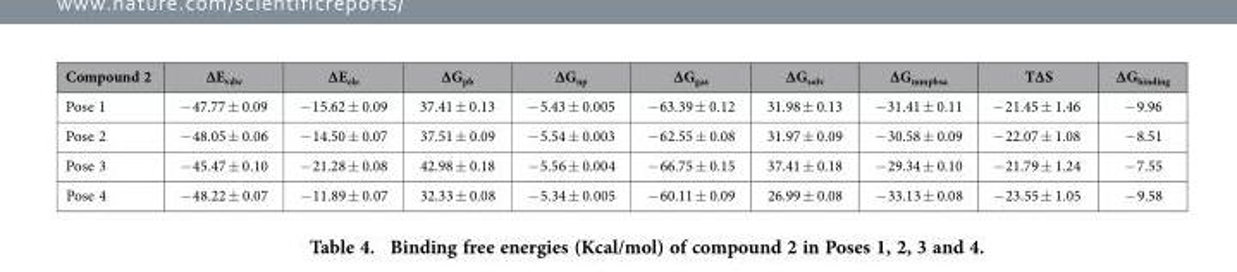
<table><thead><tr><td>Compound 2</td><td>∆E<sub>vdw</sub></td><td>∆E<sub>ele</sub></td><td>∆G<sub>pb</sub></td><td>∆G<sub>np</sub></td><td>∆G<sub>gas</sub></td><td>∆G<sub>solv</sub></td><td>∆G<sub>mmpbsa</sub></td><td>T∆S</td><td>∆G<sub>binding</sub></td></tr></thead><tbody><tr><td>Pose 1</td><td>− 47.77 ± 0.09</td><td>− 15.62 ± 0.09</td><td>37.41 ± 0.13</td><td>− 5.43 ± 0.005</td><td>− 63.39 ± 0.12</td><td>31.98 ± 0.13</td><td>− 31.41 ± 0.11</td><td>− 21.45 ± 1.46</td><td>− 9.96</td></tr><tr><td>Pose 2</td><td>− 48.05 ± 0.06</td><td>− 14.50 ± 0.07</td><td>37.51 ± 0.09</td><td>− 5.54 ± 0.003</td><td>− 62.55 ± 0.08</td><td>31.97 ± 0.09</td><td>− 30.58 ± 0.09</td><td>− 22.07 ± 1.08</td><td>− 8.51</td></tr><tr><td>Pose 3</td><td>− 45.47 ± 0.10</td><td>− 21.28 ± 0.08</td><td>42.98 ± 0.18</td><td>− 5.56 ± 0.004</td><td>− 66.75 ± 0.15</td><td>37.41 ± 0.18</td><td>− 29.34 ± 0.10</td><td>− 21.79 ± 1.24</td><td>− 7.55</td></tr><tr><td>Pose 4</td><td>− 48.22 ± 0.07</td><td>− 11.89 ± 0.07</td><td>32.33 ± 0.08</td><td>− 5.34 ± 0.005</td><td>− 60.11 ± 0.09</td><td>26.99 ± 0.08</td><td>− 33.13 ± 0.08</td><td>− 23.55 ± 1.05</td><td>− 9.58</td></tr></tbody></table>